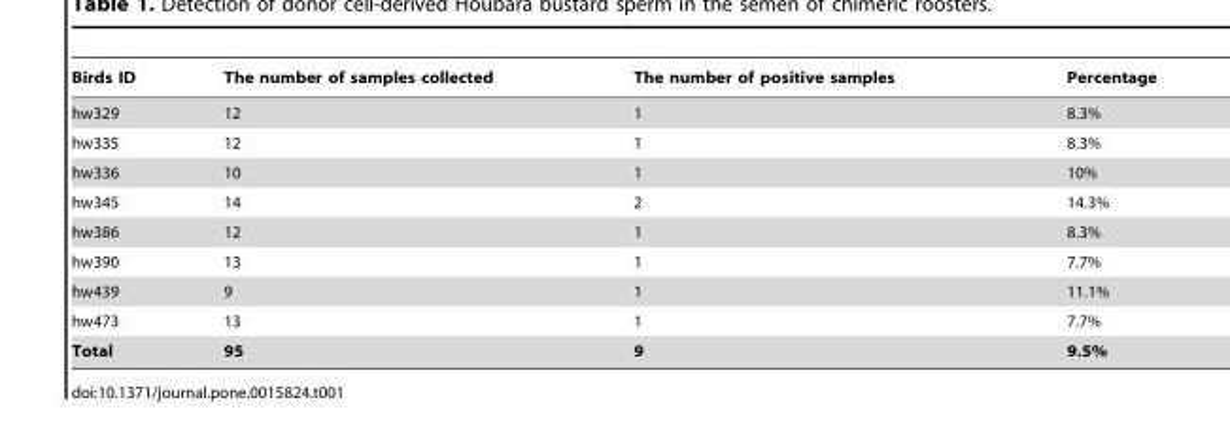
<table><thead><tr><td>Birds ID</td><td>The number of samples collected</td><td>The number of positive samples</td><td>Percentage</td></tr></thead><tbody><tr><td>hw329</td><td>12</td><td>1</td><td>8.3%</td></tr><tr><td>hw335</td><td>12</td><td>1</td><td>8.3%</td></tr><tr><td>hw336</td><td>10</td><td>1</td><td>10%</td></tr><tr><td>hw345</td><td>14</td><td>2</td><td>14.3%</td></tr><tr><td>hw386</td><td>12</td><td>1</td><td>8.3%</td></tr><tr><td>hw390</td><td>13</td><td>1</td><td>7.7%</td></tr><tr><td>hw439</td><td>9</td><td>1</td><td>11.1%</td></tr><tr><td>hw473</td><td>13</td><td>1</td><td>7.7%</td></tr><tr><td>Total</td><td>95</td><td>9</td><td>9.5%</td></tr></tbody></table>